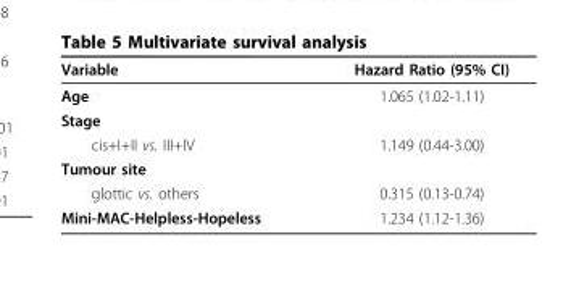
<table><thead><tr><td>Variable</td><td>Hazard Ratio (95% CI)</td></tr></thead><tbody><tr><td>Age</td><td>1.065 (1.02-1.11)</td></tr><tr><td colspan="2">Stage</td></tr><tr><td>cis+I+II vs. III+IV</td><td>1.149 (0.44-3.00)</td></tr><tr><td colspan="2">Tumour site</td></tr><tr><td>glottic vs. others</td><td>0.315 (0.13-0.74)</td></tr><tr><td>Mini-MAC-Helpless-Hopeless</td><td>1.234 (1.12-1.36)</td></tr></tbody></table>